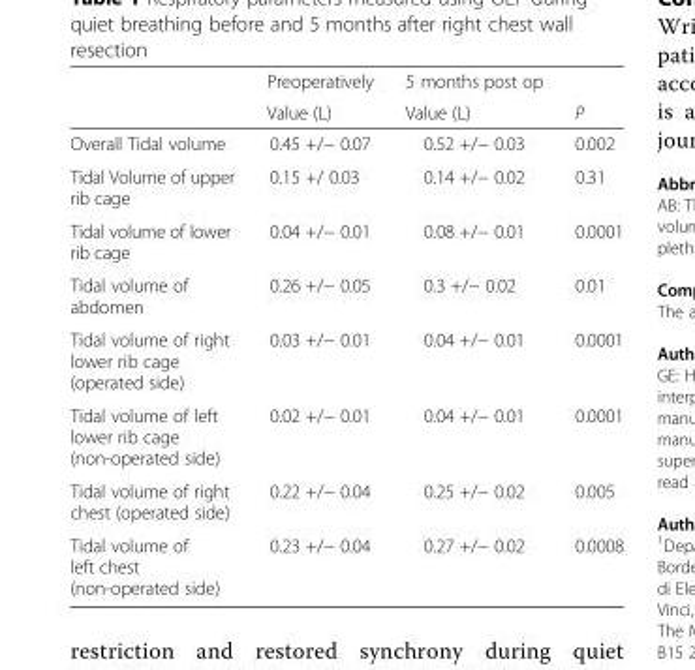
<table><thead><tr><td rowspan="2"></td><td rowspan="2">Preoperatively Value (L)</td><td rowspan="2">5 months post op Value (L)</td><td rowspan="2">P</td></tr><tr></tr></thead><tbody><tr><td>Overall Tidal volume</td><td>0.45 +/− 0.07</td><td>0.52 +/− 0.03</td><td>0.002</td></tr><tr><td>Tidal Volume of upper rib cage</td><td>0.15 +/ 0.03</td><td>0.14 +/− 0.02</td><td>0.31</td></tr><tr><td>Tidal volume of lower rib cage</td><td>0.04 +/− 0.01</td><td>0.08 +/− 0.01</td><td>0.0001</td></tr><tr><td>Tidal volume of abdomen</td><td>0.26 +/− 0.05</td><td>0.3 +/− 0.02</td><td>0.01</td></tr><tr><td>Tidal volume of right lower rib cage (operated side)</td><td>0.03 +/− 0.01</td><td>0.04 +/− 0.01</td><td>0.0001</td></tr><tr><td>Tidal volume of left lower rib cage (non-operated side)</td><td>0.02 +/− 0.01</td><td>0.04 +/− 0.01</td><td>0.0001</td></tr><tr><td>Tidal volume of right chest (operated side)</td><td>0.22 +/− 0.04</td><td>0.25 +/− 0.02</td><td>0.005</td></tr><tr><td>Tidal volume of left chest (non-operated side)</td><td>0.23 +/− 0.04</td><td>0.27 +/− 0.02</td><td>0.0008</td></tr></tbody></table>